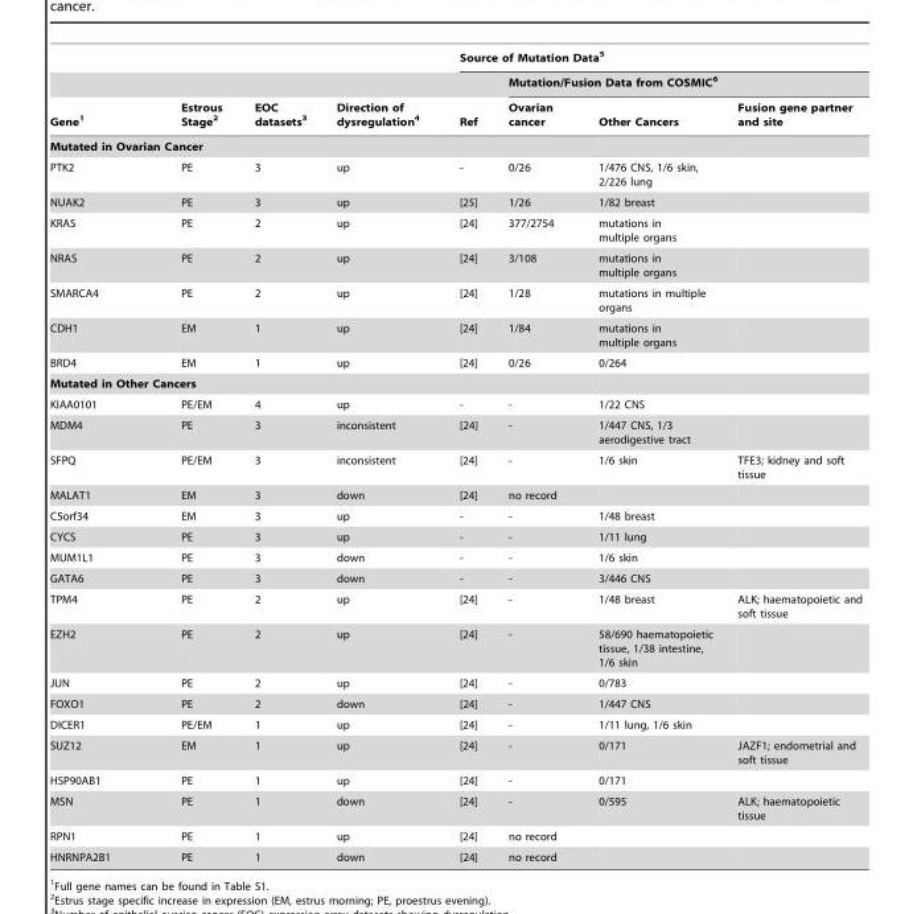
<table><thead><tr><td rowspan="3">Gene<sup>1</sup></td><td rowspan="3">Estrous Stage<sup>2</sup></td><td rowspan="3">EOC datasets<sup>3</sup></td><td rowspan="3">Direction of dysregulation<sup>4</sup></td><td colspan="4">Source of Mutation Data<sup>5</sup></td></tr><tr><td rowspan="2">Ref</td><td colspan="3">Mutation/Fusion Data from COSMIC<sup>6</sup></td></tr><tr><td>Ovarian cancer</td><td>Other Cancers</td><td>Fusion gene partner and site</td></tr></thead><tbody><tr><td colspan="8">Mutated in Ovarian Cancer</td></tr><tr><td>PTK2</td><td>PE</td><td>3</td><td>up</td><td>-</td><td>0/26</td><td>1/476 CNS, 1/6 skin, 2/226 lung</td><td></td></tr><tr><td>NUAK2</td><td>PE</td><td>3</td><td>up</td><td>[25]</td><td>1/26</td><td>1/82 breast</td><td></td></tr><tr><td>KRAS</td><td>PE</td><td>2</td><td>up</td><td>[24]</td><td>377/2754</td><td>mutations in multiple organs</td><td></td></tr><tr><td>NRAS</td><td>PE</td><td>2</td><td>up</td><td>[24]</td><td>3/108</td><td>mutations in multiple organs</td><td></td></tr><tr><td>SMARCA4</td><td>PE</td><td>2</td><td>up</td><td>[24]</td><td>1/28</td><td>mutations in multiple organs</td><td></td></tr><tr><td>CDH1</td><td>EM</td><td>1</td><td>up</td><td>[24]</td><td>1/84</td><td>mutations in multiple organs</td><td></td></tr><tr><td>BRD4</td><td>EM</td><td>1</td><td>up</td><td>[24]</td><td>0/26</td><td>0/264</td><td></td></tr><tr><td colspan="8">Mutated in Other Cancers</td></tr><tr><td>KIAA0101</td><td>PE/EM</td><td>4</td><td>up</td><td>-</td><td>-</td><td>1/22 CNS</td><td></td></tr><tr><td>MDM4</td><td>PE</td><td>3</td><td>inconsistent</td><td>[24]</td><td>-</td><td>1/447 CNS, 1/3 aerodigestive tract</td><td></td></tr><tr><td>SFPQ</td><td>PE/EM</td><td>3</td><td>inconsistent</td><td>[24]</td><td>-</td><td>1/6 skin</td><td>TFE3; kidney and soft tissue</td></tr><tr><td>MALAT1</td><td>EM</td><td>3</td><td>down</td><td>[24]</td><td>no record</td><td></td><td></td></tr><tr><td>C5orf34</td><td>EM</td><td>3</td><td>up</td><td>-</td><td>-</td><td>1/48 breast</td><td></td></tr><tr><td>CYCS</td><td>PE</td><td>3</td><td>up</td><td>-</td><td>-</td><td>1/11 lung</td><td></td></tr><tr><td>MUM1L1</td><td>PE</td><td>3</td><td>down</td><td>-</td><td>-</td><td>1/6 skin</td><td></td></tr><tr><td>GATA6</td><td>PE</td><td>3</td><td>down</td><td>-</td><td>-</td><td>3/446 CNS</td><td></td></tr><tr><td>TPM4</td><td>PE</td><td>2</td><td>up</td><td>[24]</td><td>-</td><td>1/48 breast</td><td>ALK; haematopoietic and soft tissue</td></tr><tr><td>EZH2</td><td>PE</td><td>2</td><td>up</td><td>[24]</td><td>-</td><td>58/690 haematopoietic tissue, 1/38 intestine, 1/6 skin</td><td></td></tr><tr><td>JUN</td><td>PE</td><td>2</td><td>up</td><td>[24]</td><td>-</td><td>0/783</td><td></td></tr><tr><td>FOXO1</td><td>PE</td><td>2</td><td>down</td><td>[24]</td><td>-</td><td>1/447 CNS</td><td></td></tr><tr><td>DICER1</td><td>PE/EM</td><td>1</td><td>up</td><td>[24]</td><td>-</td><td>1/11 lung, 1/6 skin</td><td></td></tr><tr><td>SUZ12</td><td>EM</td><td>1</td><td>up</td><td>[24]</td><td>-</td><td>0/171</td><td>JAZF1; endometrial and soft tissue</td></tr><tr><td>HSP90AB1</td><td>PE</td><td>1</td><td>up</td><td>[24]</td><td>-</td><td>0/171</td><td></td></tr><tr><td>MSN</td><td>PE</td><td>1</td><td>down</td><td>[24]</td><td>-</td><td>0/595</td><td>ALK; haematopoietic tissue</td></tr><tr><td>RPN1</td><td>PE</td><td>1</td><td>up</td><td>[24]</td><td>no record</td><td></td><td></td></tr><tr><td>HNRNPA2B1</td><td>PE</td><td>1</td><td>down</td><td>[24]</td><td>no record</td><td></td><td></td></tr></tbody></table>